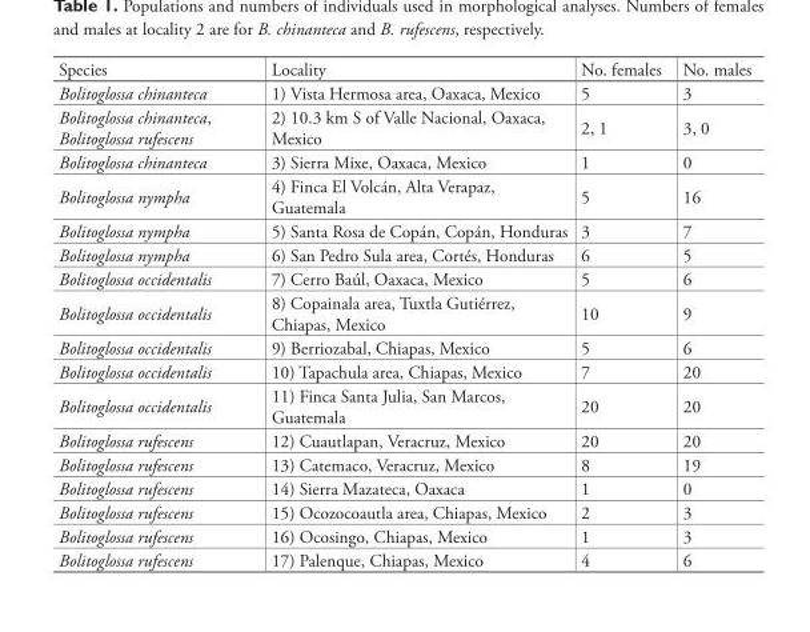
<table><thead><tr><td>Species</td><td>Locality</td><td>No. females</td><td>No. males</td></tr></thead><tbody><tr><td>Bolitoglossa chinanteca</td><td>1) Vista Hermosa area, Oaxaca, Mexico</td><td>5</td><td>3</td></tr><tr><td>Bolitoglossa chinanteca, Bolitoglossa rufescens</td><td>2) 10.3 km S of Valle Nacional, Oaxaca, Mexico</td><td>2, 1</td><td>3, 0</td></tr><tr><td>Bolitoglossa chinanteca</td><td>3) Sierra Mixe, Oaxaca, Mexico</td><td>1</td><td>0</td></tr><tr><td>Bolitoglossa nympha</td><td>4) Finca El Volcán, Alta Verapaz, Guatemala</td><td>5</td><td>16</td></tr><tr><td>Bolitoglossa nympha</td><td>5) Santa Rosa de Copán, Copán, Honduras</td><td>3</td><td>7</td></tr><tr><td>Bolitoglossa nympha</td><td>6) San Pedro Sula area, Cortés, Honduras</td><td>6</td><td>5</td></tr><tr><td>Bolitoglossa occidentalis</td><td>7) Cerro Baúl, Oaxaca, Mexico</td><td>5</td><td>6</td></tr><tr><td>Bolitoglossa occidentalis</td><td>8) Copainala area, Tuxtla Gutiérrez, Chiapas, Mexico</td><td>10</td><td>9</td></tr><tr><td>Bolitoglossa occidentalis</td><td>9) Berriozabal, Chiapas, Mexico</td><td>5</td><td>6</td></tr><tr><td>Bolitoglossa occidentalis</td><td>10) Tapachula area, Chiapas, Mexico</td><td>7</td><td>20</td></tr><tr><td>Bolitoglossa occidentalis</td><td>11) Finca Santa Julia, San Marcos, Guatemala</td><td>20</td><td>20</td></tr><tr><td>Bolitoglossa rufescens</td><td>12) Cuautlapan, Veracruz, Mexico</td><td>20</td><td>20</td></tr><tr><td>Bolitoglossa rufescens</td><td>13) Catemaco, Veracruz, Mexico</td><td>8</td><td>19</td></tr><tr><td>Bolitoglossa rufescens</td><td>14) Sierra Mazateca, Oaxaca</td><td>1</td><td>0</td></tr><tr><td>Bolitoglossa rufescens</td><td>15) Ocozocoautla area, Chiapas, Mexico</td><td>2</td><td>3</td></tr><tr><td>Bolitoglossa rufescens</td><td>16) Ocosingo, Chiapas, Mexico</td><td>1</td><td>3</td></tr><tr><td>Bolitoglossa rufescens</td><td>17) Palenque, Chiapas, Mexico</td><td>4</td><td>6</td></tr></tbody></table>